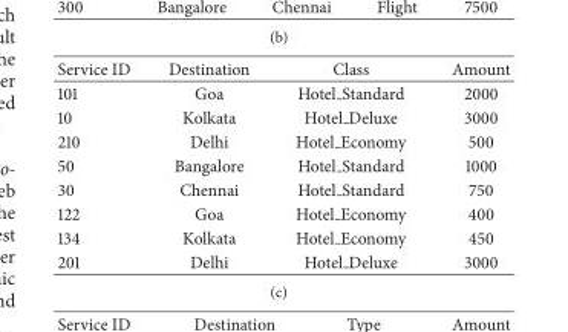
<table><thead><tr><td>Service ID</td><td>Destination</td><td>Class</td><td>Amount</td></tr></thead><tbody><tr><td>101</td><td>Goa</td><td>Hotel Standard</td><td>2000</td></tr><tr><td>10</td><td>Kolkata</td><td>Hotel Deluxe</td><td>3000</td></tr><tr><td>210</td><td>Delhi</td><td>Hotel Economy</td><td>500</td></tr><tr><td>50</td><td>Bangalore</td><td>Hotel Standard</td><td>1000</td></tr><tr><td>30</td><td>Chennai</td><td>Hotel Standard</td><td>750</td></tr><tr><td>122</td><td>Goa</td><td>Hotel Economy</td><td>400</td></tr><tr><td>134</td><td>Kolkata</td><td>Hotel Economy</td><td>450</td></tr><tr><td>201</td><td>Delhi</td><td>Hotel Deluxe</td><td>3000</td></tr></tbody></table>